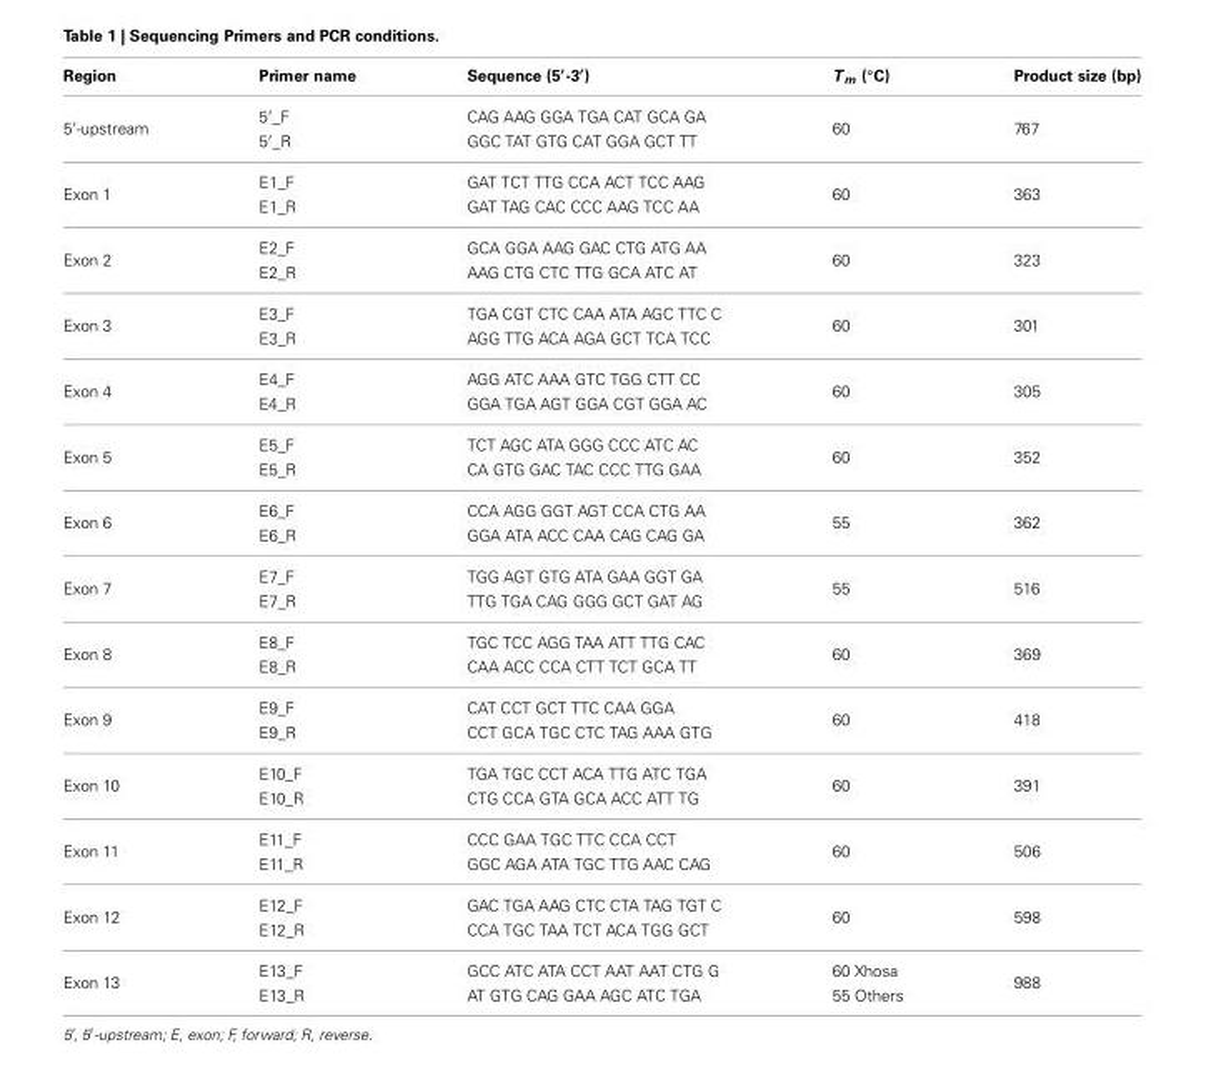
<table><thead><tr><td>Region</td><td>Primer name</td><td>Sequence (5′-3′)</td><td>T m (◦C)</td><td>Product size (bp)</td></tr></thead><tbody><tr><td rowspan="2">5′-upstream</td><td>5′_F</td><td>CAG AAG GGA TGA CAT GCA GA</td><td rowspan="2">60</td><td rowspan="2">767</td></tr><tr><td>5′_R</td><td>GGC TAT GTG CAT GGA GCT TT</td></tr><tr><td rowspan="2">Exon 1</td><td>E1_F</td><td>GAT TCT TTG CCA ACT TCC AAG</td><td rowspan="2">60</td><td rowspan="2">363</td></tr><tr><td>E1_R</td><td>GAT TAG CAC CCC AAG TCC AA</td></tr><tr><td rowspan="2">Exon 2</td><td>E2_F</td><td>GCA GGA AAG GAC CTG ATG AA</td><td rowspan="2">60</td><td rowspan="2">323</td></tr><tr><td>E2_R</td><td>AAG CTG CTC TTG GCA ATC AT</td></tr><tr><td rowspan="2">Exon 3</td><td>E3_F</td><td>TGA CGT CTC CAA ATA AGC TTC C</td><td rowspan="2">60</td><td rowspan="2">301</td></tr><tr><td>E3_R</td><td>AGG TTG ACA AGA GCT TCA TCC</td></tr><tr><td rowspan="2">Exon 4</td><td>E4_F</td><td>AGG ATC AAA GTC TGG CTT CC</td><td rowspan="2">60</td><td rowspan="2">305</td></tr><tr><td>E4_R</td><td>GGA TGA AGT GGA CGT GGA AC</td></tr><tr><td rowspan="2">Exon 5</td><td>E5_F</td><td>TCT AGC ATA GGG CCC ATC AC</td><td rowspan="2">60</td><td rowspan="2">352</td></tr><tr><td>E5_R</td><td>CA GTG GAC TAC CCC TTG GAA</td></tr><tr><td rowspan="2">Exon 6</td><td>E6_F</td><td>CCA AGG GGT AGT CCA CTG AA</td><td rowspan="2">55</td><td rowspan="2">362</td></tr><tr><td>E6_R</td><td>GGA ATA ACC CAA CAG CAG GA</td></tr><tr><td rowspan="2">Exon 7</td><td>E7_F</td><td>TGG AGT GTG ATA GAA GGT GA</td><td rowspan="2">55</td><td rowspan="2">516</td></tr><tr><td>E7_R</td><td>TTG TGA CAG GGG GCT GAT AG</td></tr><tr><td rowspan="2">Exon 8</td><td>E8_F</td><td>TGC TCC AGG TAA ATT TTG CAC</td><td rowspan="2">60</td><td rowspan="2">369</td></tr><tr><td>E8_R</td><td>CAA ACC CCA CTT TCT GCA TT</td></tr><tr><td rowspan="2">Exon 9</td><td>E9_F</td><td>CAT CCT GCT TTC CAA GGA</td><td rowspan="2">60</td><td rowspan="2">418</td></tr><tr><td>E9_R</td><td>CCT GCA TGC CTC TAG AAA GTG</td></tr><tr><td rowspan="2">Exon 10</td><td>E10_F</td><td>TGA TGC CCT ACA TTG ATC TGA</td><td rowspan="2">60</td><td rowspan="2">391</td></tr><tr><td>E10_R</td><td>CTG CCA GTA GCA ACC ATT TG</td></tr><tr><td rowspan="2">Exon 11</td><td>E11_F</td><td>CCC GAA TGC TTC CCA CCT</td><td rowspan="2">60</td><td rowspan="2">506</td></tr><tr><td>E11_R</td><td>GGC AGA ATA TGC TTG AAC CAG</td></tr><tr><td rowspan="2">Exon 12</td><td>E12_F</td><td>GAC TGA AAG CTC CTA TAG TGT C</td><td rowspan="2">60</td><td rowspan="2">598</td></tr><tr><td>E12_R</td><td>CCA TGC TAA TCT ACA TGG GCT</td></tr><tr><td rowspan="2">Exon 13</td><td>E13_F</td><td>GCC ATC ATA CCT AAT AAT CTG G</td><td>60 Xhosa</td><td rowspan="2">988</td></tr><tr><td>E13_R</td><td>AT GTG CAG GAA AGC ATC TGA</td><td>55 Others</td></tr></tbody></table>